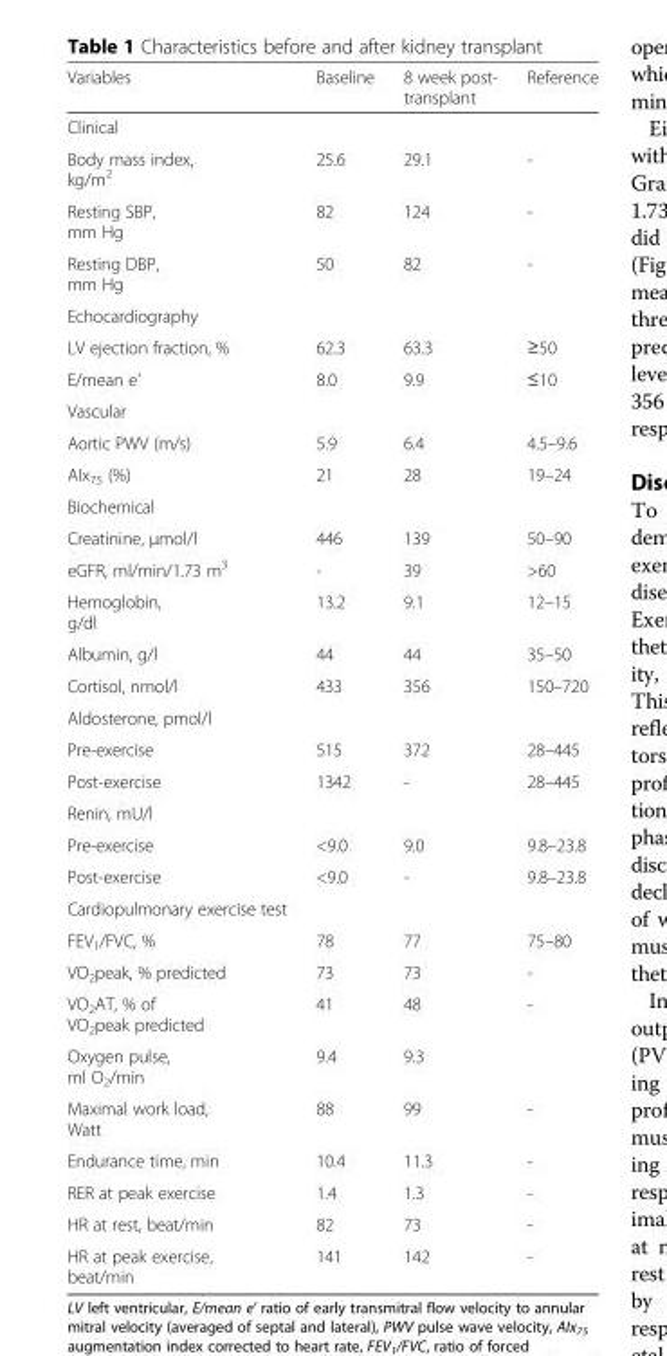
<table><thead><tr><td>Variables</td><td>Baseline</td><td>8 week post- transplant</td><td>Reference</td></tr></thead><tbody><tr><td colspan="4">Clinical</td></tr><tr><td>Body mass index, kg/m<sup>2</sup></td><td>25.6</td><td>29.1</td><td>-</td></tr><tr><td>Resting SBP, mm Hg</td><td>82</td><td>124</td><td>-</td></tr><tr><td>Resting DBP, mm Hg</td><td>50</td><td>82</td><td>-</td></tr><tr><td colspan="4">Echocardiography</td></tr><tr><td>LV ejection fraction, %</td><td>62.3</td><td>63.3</td><td>≥50</td></tr><tr><td>E/mean e&#x27;</td><td>8.0</td><td>9.9</td><td>≤10</td></tr><tr><td colspan="4">Vascular</td></tr><tr><td>Aortic PWV (m/s)</td><td>5.9</td><td>6.4</td><td>4.5–9.6</td></tr><tr><td>AIx<sub>75</sub> (%)</td><td>21</td><td>28</td><td>19–24</td></tr><tr><td colspan="4">Biochemical</td></tr><tr><td>Creatinine, μmol/l</td><td>446</td><td>139</td><td>50–90</td></tr><tr><td>eGFR, ml/min/1.73 m<sup>3</sup></td><td>-</td><td>39</td><td>&gt;60</td></tr><tr><td>Hemoglobin, g/dl</td><td>13.2</td><td>9.1</td><td>12–15</td></tr><tr><td>Albumin, g/l</td><td>44</td><td>44</td><td>35–50</td></tr><tr><td>Cortisol, nmol/l</td><td>433</td><td>356</td><td>150–720</td></tr><tr><td colspan="4">Aldosterone, pmol/l</td></tr><tr><td>Pre-exercise</td><td>515</td><td>372</td><td>28–445</td></tr><tr><td>Post-exercise</td><td>1342</td><td>-</td><td>28–445</td></tr><tr><td colspan="4">Renin, mU/l</td></tr><tr><td>Pre-exercise</td><td>&lt;9.0</td><td>9.0</td><td>9.8–23.8</td></tr><tr><td>Post-exercise</td><td>&lt;9.0</td><td>-</td><td>9.8–23.8</td></tr><tr><td colspan="4">Cardiopulmonary exercise test</td></tr><tr><td>FEV<sub>1</sub>/FVC, %</td><td>78</td><td>77</td><td>75–80</td></tr><tr><td>VO<sub>2</sub>peak, % predicted</td><td>73</td><td>73</td><td>-</td></tr><tr><td>VO<sub>2</sub>AT, % of VO<sub>2</sub>peak predicted</td><td>41</td><td>48</td><td>-</td></tr><tr><td>Oxygen pulse, ml O<sub>2</sub>/min</td><td>9.4</td><td>9.3</td><td></td></tr><tr><td>Maximal work load, Watt</td><td>88</td><td>99</td><td>-</td></tr><tr><td>Endurance time, min</td><td>10.4</td><td>11.3</td><td>-</td></tr><tr><td>RER at peak exercise</td><td>1.4</td><td>1.3</td><td>-</td></tr><tr><td>HR at rest, beat/min</td><td>82</td><td>73</td><td>-</td></tr><tr><td>HR at peak exercise, beat/min</td><td>141</td><td>142</td><td>-</td></tr></tbody></table>